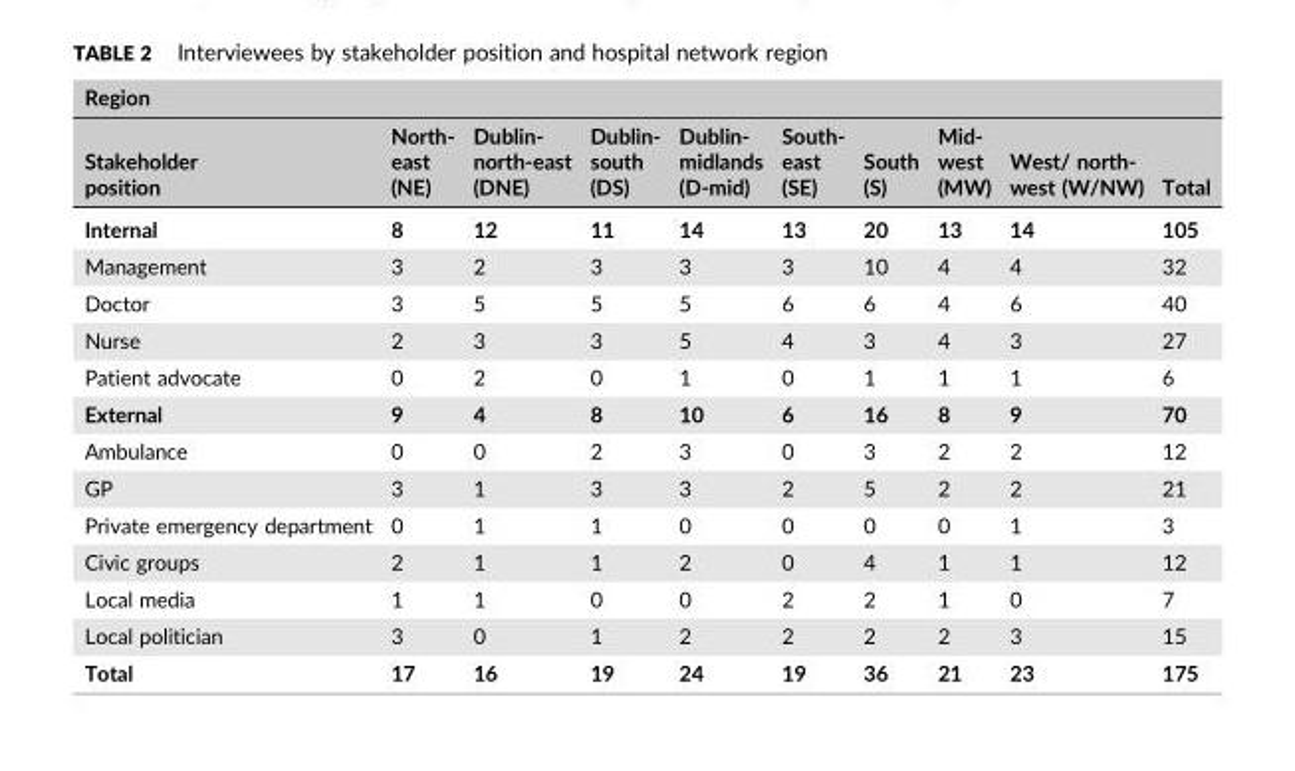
<table><thead><tr><td colspan="10">Region</td></tr><tr><td>Stakeholder position</td><td>North‐ east (NE)</td><td>Dublin‐ north‐east (DNE)</td><td>Dublin‐ south (DS)</td><td>Dublin‐ midlands (D‐mid)</td><td>South‐ east (SE)</td><td>South (S)</td><td>Mid‐ west (MW)</td><td>West/ north‐ west (W/NW)</td><td>Total</td></tr></thead><tbody><tr><td>Internal</td><td>8</td><td>12</td><td>11</td><td>14</td><td>13</td><td>20</td><td>13</td><td>14</td><td>105</td></tr><tr><td>Management</td><td>3</td><td>2</td><td>3</td><td>3</td><td>3</td><td>10</td><td>4</td><td>4</td><td>32</td></tr><tr><td>Doctor</td><td>3</td><td>5</td><td>5</td><td>5</td><td>6</td><td>6</td><td>4</td><td>6</td><td>40</td></tr><tr><td>Nurse</td><td>2</td><td>3</td><td>3</td><td>5</td><td>4</td><td>3</td><td>4</td><td>3</td><td>27</td></tr><tr><td>Patient advocate</td><td>0</td><td>2</td><td>0</td><td>1</td><td>0</td><td>1</td><td>1</td><td>1</td><td>6</td></tr><tr><td>External</td><td>9</td><td>4</td><td>8</td><td>10</td><td>6</td><td>16</td><td>8</td><td>9</td><td>70</td></tr><tr><td>Ambulance</td><td>0</td><td>0</td><td>2</td><td>3</td><td>0</td><td>3</td><td>2</td><td>2</td><td>12</td></tr><tr><td>GP</td><td>3</td><td>1</td><td>3</td><td>3</td><td>2</td><td>5</td><td>2</td><td>2</td><td>21</td></tr><tr><td>Private emergency department</td><td>0</td><td>1</td><td>1</td><td>0</td><td>0</td><td>0</td><td>0</td><td>1</td><td>3</td></tr><tr><td>Civic groups</td><td>2</td><td>1</td><td>1</td><td>2</td><td>0</td><td>4</td><td>1</td><td>1</td><td>12</td></tr><tr><td>Local media</td><td>1</td><td>1</td><td>0</td><td>0</td><td>2</td><td>2</td><td>1</td><td>0</td><td>7</td></tr><tr><td>Local politician</td><td>3</td><td>0</td><td>1</td><td>2</td><td>2</td><td>2</td><td>2</td><td>3</td><td>15</td></tr><tr><td>Total</td><td>17</td><td>16</td><td>19</td><td>24</td><td>19</td><td>36</td><td>21</td><td>23</td><td>175</td></tr></tbody></table>